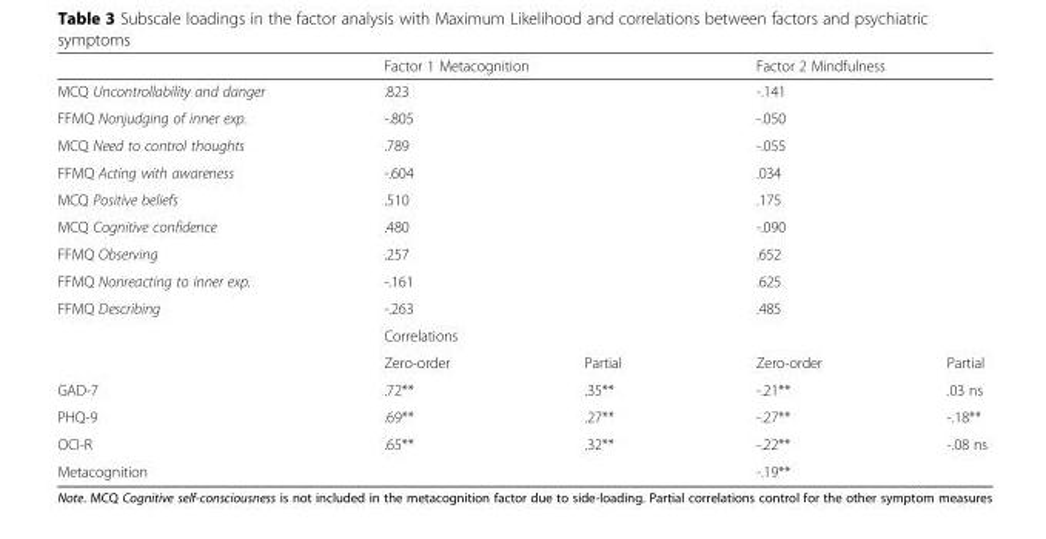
<table><thead><tr><td></td><td colspan="2">Factor 1 Metacognition</td><td colspan="2">Factor 2 Mindfulness</td></tr></thead><tbody><tr><td>MCQ Uncontrollability and danger</td><td colspan="2">.823</td><td colspan="2">-.141</td></tr><tr><td>FFMQ Nonjudging of inner exp.</td><td colspan="2">-.805</td><td colspan="2">-.050</td></tr><tr><td>MCQ Need to control thoughts</td><td colspan="2">.789</td><td colspan="2">-.055</td></tr><tr><td>FFMQ Acting with awareness</td><td colspan="2">-.604</td><td colspan="2">.034</td></tr><tr><td>MCQ Positive beliefs</td><td colspan="2">.510</td><td colspan="2">.175</td></tr><tr><td>MCQ Cognitive confidence</td><td colspan="2">.480</td><td colspan="2">-.090</td></tr><tr><td>FFMQ Observing</td><td colspan="2">.257</td><td colspan="2">.652</td></tr><tr><td>FFMQ Nonreacting to inner exp.</td><td colspan="2">-.161</td><td colspan="2">.625</td></tr><tr><td rowspan="3">FFMQ Describing</td><td colspan="2">-.263</td><td colspan="2">.485</td></tr><tr><td colspan="4">Correlations</td></tr><tr><td>Zero-order</td><td>Partial</td><td>Zero-order</td><td>Partial</td></tr><tr><td>GAD-7</td><td>.72**</td><td>.35**</td><td>-.21**</td><td>.03 ns</td></tr><tr><td>PHQ-9</td><td>.69**</td><td>.27**</td><td>-.27**</td><td>-.18**</td></tr><tr><td>OCI-R</td><td>.65**</td><td>.32**</td><td>-.22**</td><td>-.08 ns</td></tr><tr><td>Metacognition</td><td colspan="2"></td><td>-.19**</td><td></td></tr></tbody></table>